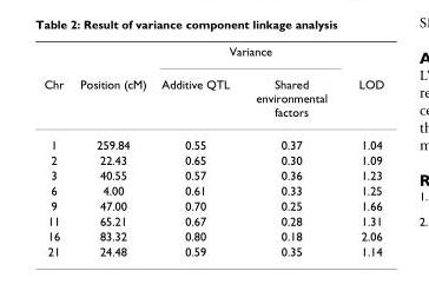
<table><thead><tr><td rowspan="2">Chr</td><td rowspan="2">Position (cM)</td><td colspan="2">Variance</td><td rowspan="2">LOD</td></tr><tr><td>Additive QTL</td><td>Shared environmental factors</td></tr></thead><tbody><tr><td>1</td><td>259.84</td><td>0.55</td><td>0.37</td><td>1.04</td></tr><tr><td>2</td><td>22.43</td><td>0.65</td><td>0.30</td><td>1.09</td></tr><tr><td>3</td><td>40.55</td><td>0.57</td><td>0.36</td><td>1.23</td></tr><tr><td>6</td><td>4.00</td><td>0.61</td><td>0.33</td><td>1.25</td></tr><tr><td>9</td><td>47.00</td><td>0.70</td><td>0.25</td><td>1.66</td></tr><tr><td>11</td><td>65.21</td><td>0.67</td><td>0.28</td><td>1.31</td></tr><tr><td>16</td><td>83.32</td><td>0.80</td><td>0.18</td><td>2.06</td></tr><tr><td>21</td><td>24.48</td><td>0.59</td><td>0.35</td><td>1.14</td></tr></tbody></table>